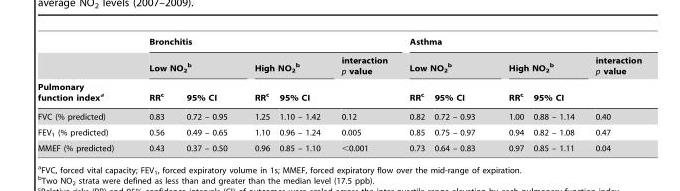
<table><thead><tr><td rowspan="3">Pulmonary function index<sup>a</sup></td><td colspan="5">Bronchitis</td><td colspan="5">Asthma</td></tr><tr><td colspan="2">Low NO<sub>2</sub> b</td><td colspan="2">High NO<sub>2</sub> b</td><td rowspan="2">interaction p value</td><td colspan="2">Low NO<sub>2</sub> b</td><td colspan="2">High NO<sub>2</sub> b</td><td rowspan="2">interaction p value</td></tr><tr><td>RR<sup>c</sup></td><td>95% CI</td><td>RR<sup>c</sup></td><td>95% CI</td><td>RR<sup>c</sup></td><td>95% CI</td><td>RR<sup>c</sup></td><td>95% CI</td></tr></thead><tbody><tr><td>FVC (% predicted)</td><td>0.83</td><td>0.72 – 0.95</td><td>1.25</td><td>1.10 – 1.42</td><td>0.12</td><td>0.82</td><td>0.72 – 0.93</td><td>1.00</td><td>0.88 – 1.14</td><td>0.40</td></tr><tr><td>FEV<sub>1</sub> (% predicted)</td><td>0.56</td><td>0.49 – 0.65</td><td>1.10</td><td>0.96 – 1.24</td><td>0.005</td><td>0.85</td><td>0.75 – 0.97</td><td>0.94</td><td>0.82 – 1.08</td><td>0.47</td></tr><tr><td>MMEF (% predicted)</td><td>0.43</td><td>0.37 – 0.50</td><td>0.96</td><td>0.85 – 1.10</td><td>&lt;0.001</td><td>0.73</td><td>0.64 – 0.83</td><td>0.97</td><td>0.85 – 1.11</td><td>0.04</td></tr></tbody></table>